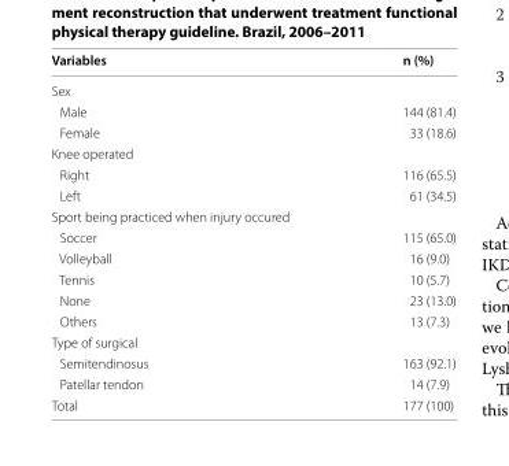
<table><thead><tr><td>Variables</td><td>n (%)</td></tr></thead><tbody><tr><td colspan="2">Sex</td></tr><tr><td>Male</td><td>144 (81.4)</td></tr><tr><td>Female</td><td>33 (18.6)</td></tr><tr><td colspan="2">Knee operated</td></tr><tr><td>Right</td><td>116 (65.5)</td></tr><tr><td>Left</td><td>61 (34.5)</td></tr><tr><td colspan="2">Sport being practiced when injury occured</td></tr><tr><td>Soccer</td><td>115 (65.0)</td></tr><tr><td>Volleyball</td><td>16 (9.0)</td></tr><tr><td>Tennis</td><td>10 (5.7)</td></tr><tr><td>None</td><td>23 (13.0)</td></tr><tr><td>Others</td><td>13 (7.3)</td></tr><tr><td colspan="2">Type of surgical</td></tr><tr><td>Semitendinosus</td><td>163 (92.1)</td></tr><tr><td>Patellar tendon</td><td>14 (7.9)</td></tr><tr><td>Total</td><td>177 (100)</td></tr></tbody></table>